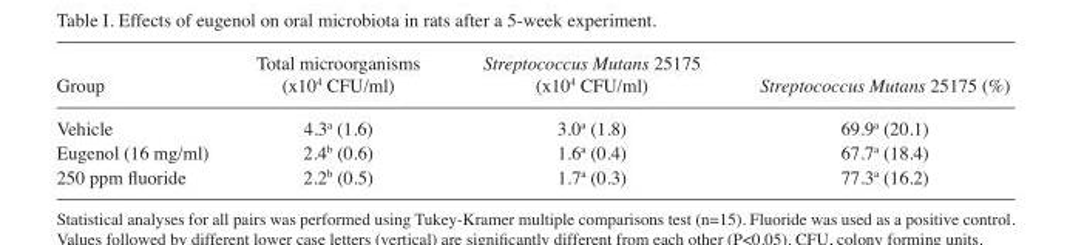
<table><thead><tr><td>Group</td><td>Total microorganisms (x104 CFU/ml)</td><td>Streptococcus Mutans 25175 (x104 CFU/ml)</td><td>Streptococcus Mutans 25175 (%)</td></tr></thead><tbody><tr><td>Vehicle</td><td>4.3<sup>a</sup> (1.6)</td><td>3.0<sup>a</sup> (1.8)</td><td>69.9<sup>a</sup> (20.1)</td></tr><tr><td>Eugenol (16 mg/ml)</td><td>2.4<sup>b</sup> (0.6)</td><td>1.6<sup>a</sup> (0.4)</td><td>67.7<sup>a</sup> (18.4)</td></tr><tr><td>250 ppm fluoride</td><td>2.2<sup>b</sup> (0.5)</td><td>1.7<sup>a</sup> (0.3)</td><td>77.3<sup>a</sup> (16.2)</td></tr></tbody></table>